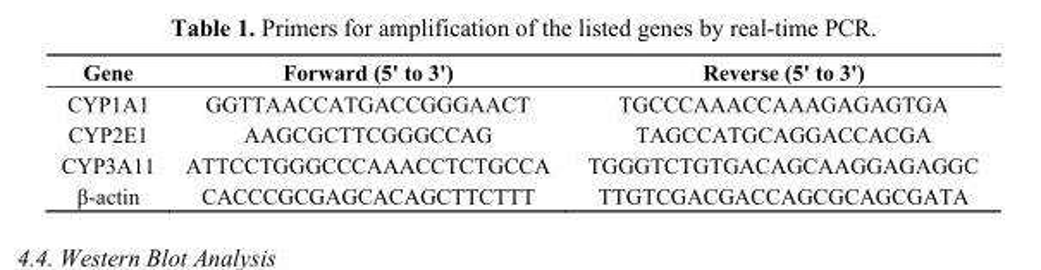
<table><thead><tr><td>Gene</td><td>Forward (5&#x27; to 3&#x27;)</td><td>Reverse (5&#x27; to 3&#x27;)</td></tr></thead><tbody><tr><td>CYP1A1</td><td>GGTTAACCATGACCGGGAACT</td><td>TGCCCAAACCAAAGAGAGTGA</td></tr><tr><td>CYP2E1</td><td>AAGCGCTTCGGGCCAG</td><td>TAGCCATGCAGGACCACGA</td></tr><tr><td>CYP3A11</td><td>ATTCCTGGGCCCAAACCTCTGCCA</td><td>TGGGTCTGTGACAGCAAGGAGAGGC</td></tr><tr><td>β-actin</td><td>CACCCGCGAGCACAGCTTCTTT</td><td>TTGTCGACGACCAGCGCAGCGATA</td></tr></tbody></table>